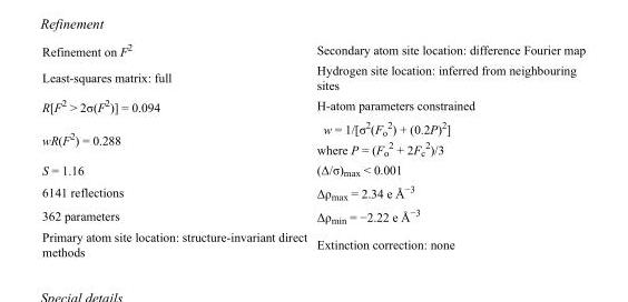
<table><tbody><tr><td>Refinement on F<sup>2</sup></td><td>Secondary atom site location: difference Fourier map</td></tr><tr><td>Least-squares matrix: full</td><td>Hydrogen site location: inferred from neighbouring sites</td></tr><tr><td>R[F<sup>2</sup> &gt; 2σ(F<sup>2</sup>)] = 0.094</td><td>H-atom parameters constrained</td></tr><tr><td>wR(F<sup>2</sup>) = 0.288</td><td>w = 1/[σ<sup>2</sup>(F<sub>o</sub> <sup>2</sup>) + (0.2P)<sup>2</sup>] where P = (F<sub>o</sub> <sup>2</sup> + 2F<sub>c</sub> <sup>2</sup>)/3</td></tr><tr><td>S = 1.16</td><td>(Δ/σ)<sub>max</sub> &lt; 0.001</td></tr><tr><td>6141 reflections</td><td>Δρ<sub>max</sub> = 2.34 e Å<sup>−3</sup></td></tr><tr><td>362 parameters</td><td>Δρ<sub>min</sub> = −2.22 e Å<sup>−3</sup></td></tr><tr><td>Primary atom site location: structure-invariant direct methods</td><td>Extinction correction: none</td></tr></tbody></table>